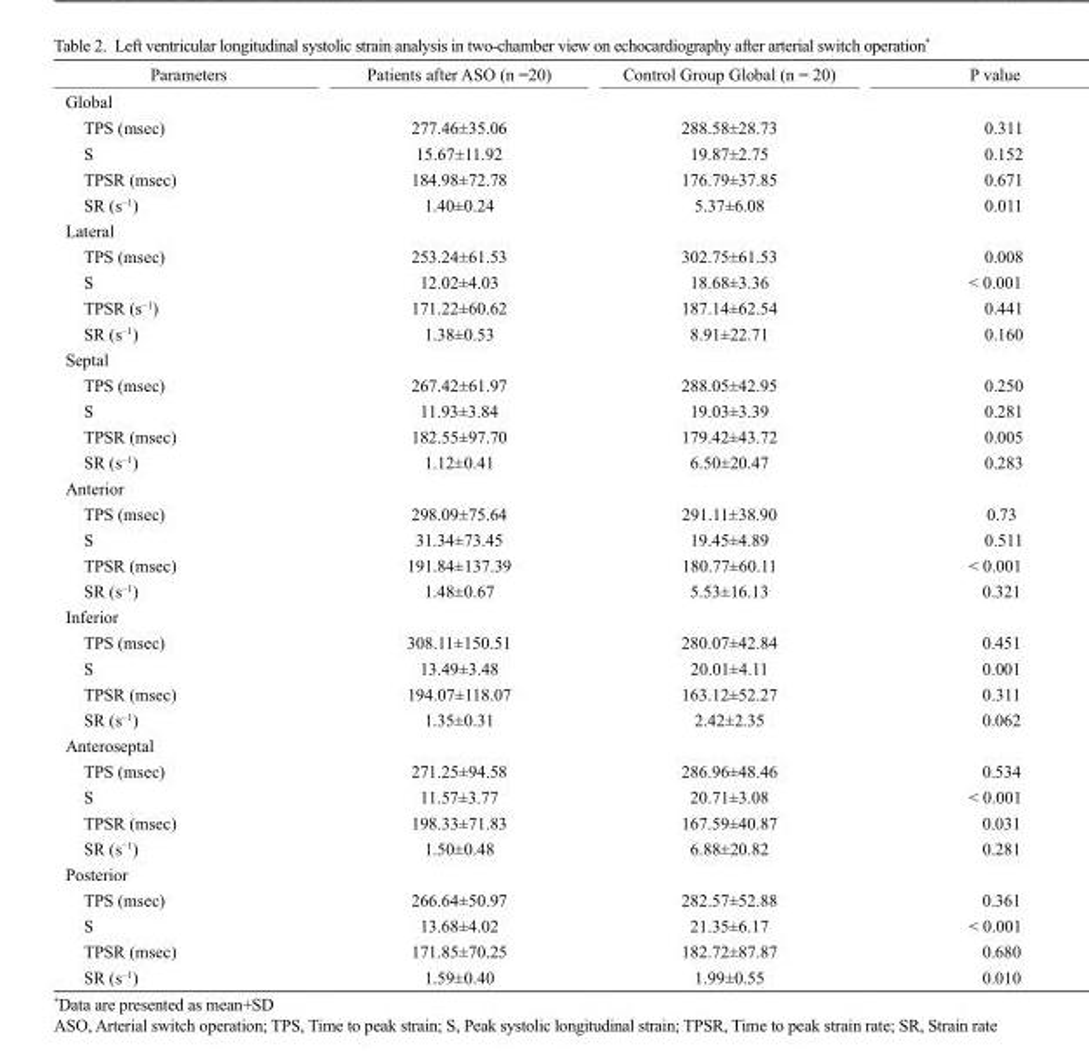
<table><thead><tr><td>Parameters</td><td>Patients after ASO (n =20)</td><td>Control Group Global (n = 20)</td><td>P value</td></tr></thead><tbody><tr><td colspan="4">Global</td></tr><tr><td>TPS (msec)</td><td>277.46±35.06</td><td>288.58±28.73</td><td>0.311</td></tr><tr><td>S</td><td>15.67±11.92</td><td>19.87±2.75</td><td>0.152</td></tr><tr><td>TPSR (msec)</td><td>184.98±72.78</td><td>176.79±37.85</td><td>0.671</td></tr><tr><td>SR (s<sup>−1</sup>)</td><td>1.40±0.24</td><td>5.37±6.08</td><td>0.011</td></tr><tr><td colspan="4">Lateral</td></tr><tr><td>TPS (msec)</td><td>253.24±61.53</td><td>302.75±61.53</td><td>0.008</td></tr><tr><td>S</td><td>12.02±4.03</td><td>18.68±3.36</td><td>&lt; 0.001</td></tr><tr><td>TPSR (s<sup>−1</sup>)</td><td>171.22±60.62</td><td>187.14±62.54</td><td>0.441</td></tr><tr><td>SR (s<sup>−1</sup>)</td><td>1.38±0.53</td><td>8.91±22.71</td><td>0.160</td></tr><tr><td colspan="4">Septal</td></tr><tr><td>TPS (msec)</td><td>267.42±61.97</td><td>288.05±42.95</td><td>0.250</td></tr><tr><td>S</td><td>11.93±3.84</td><td>19.03±3.39</td><td>0.281</td></tr><tr><td>TPSR (msec)</td><td>182.55±97.70</td><td>179.42±43.72</td><td>0.005</td></tr><tr><td>SR (s<sup>−1</sup>)</td><td>1.12±0.41</td><td>6.50±20.47</td><td>0.283</td></tr><tr><td colspan="4">Anterior</td></tr><tr><td>TPS (msec)</td><td>298.09±75.64</td><td>291.11±38.90</td><td>0.73</td></tr><tr><td>S</td><td>31.34±73.45</td><td>19.45±4.89</td><td>0.511</td></tr><tr><td>TPSR (msec)</td><td>191.84±137.39</td><td>180.77±60.11</td><td>&lt; 0.001</td></tr><tr><td>SR (s<sup>−1</sup>)</td><td>1.48±0.67</td><td>5.53±16.13</td><td>0.321</td></tr><tr><td colspan="4">Inferior</td></tr><tr><td>TPS (msec)</td><td>308.11±150.51</td><td>280.07±42.84</td><td>0.451</td></tr><tr><td>S</td><td>13.49±3.48</td><td>20.01±4.11</td><td>0.001</td></tr><tr><td>TPSR (msec)</td><td>194.07±118.07</td><td>163.12±52.27</td><td>0.311</td></tr><tr><td>SR (s<sup>−1</sup>)</td><td>1.35±0.31</td><td>2.42±2.35</td><td>0.062</td></tr><tr><td colspan="4">Anteroseptal</td></tr><tr><td>TPS (msec)</td><td>271.25±94.58</td><td>286.96±48.46</td><td>0.534</td></tr><tr><td>S</td><td>11.57±3.77</td><td>20.71±3.08</td><td>&lt; 0.001</td></tr><tr><td>TPSR (msec)</td><td>198.33±71.83</td><td>167.59±40.87</td><td>0.031</td></tr><tr><td>SR (s<sup>−1</sup>)</td><td>1.50±0.48</td><td>6.88±20.82</td><td>0.281</td></tr><tr><td colspan="4">Posterior</td></tr><tr><td>TPS (msec)</td><td>266.64±50.97</td><td>282.57±52.88</td><td>0.361</td></tr><tr><td>S</td><td>13.68±4.02</td><td>21.35±6.17</td><td>&lt; 0.001</td></tr><tr><td>TPSR (msec)</td><td>171.85±70.25</td><td>182.72±87.87</td><td>0.680</td></tr><tr><td>SR (s<sup>−1</sup>)</td><td>1.59±0.40</td><td>1.99±0.55</td><td>0.010</td></tr></tbody></table>